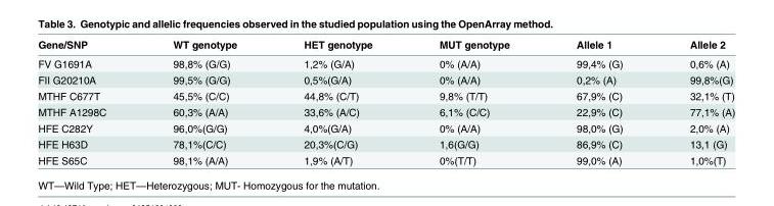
<table><thead><tr><td>Gene/SNP</td><td>WT genotype</td><td>HET genotype</td><td>MUT genotype</td><td>Allele 1</td><td>Allele 2</td></tr></thead><tbody><tr><td>FV G1691A</td><td>98,8% (G/G)</td><td>1,2% (G/A)</td><td>0% (A/A)</td><td>99,4% (G)</td><td>0,6% (A)</td></tr><tr><td>FII G20210A</td><td>99,5% (G/G)</td><td>0,5%(G/A)</td><td>0% (A/A)</td><td>0,2% (A)</td><td>99,8%(G)</td></tr><tr><td>MTHF C677T</td><td>45,5% (C/C)</td><td>44,8% (C/T)</td><td>9,8% (T/T)</td><td>67,9% (C)</td><td>32,1% (T)</td></tr><tr><td>MTHF A1298C</td><td>60,3% (A/A)</td><td>33,6% (A/C)</td><td>6,1% (C/C)</td><td>22,9% (C)</td><td>77,1% (A)</td></tr><tr><td>HFE C282Y</td><td>96,0%(G/G)</td><td>4,0%(G/A)</td><td>0% (A/A)</td><td>98,0% (G)</td><td>2,0% (A)</td></tr><tr><td>HFE H63D</td><td>78,1%(C/C)</td><td>20,3%(C/G)</td><td>1,6(G/G)</td><td>86,9% (C)</td><td>13,1 (G)</td></tr><tr><td>HFE S65C</td><td>98,1% (A/A)</td><td>1,9% (A/T)</td><td>0%(T/T)</td><td>99,0% (A)</td><td>1,0%(T)</td></tr></tbody></table>